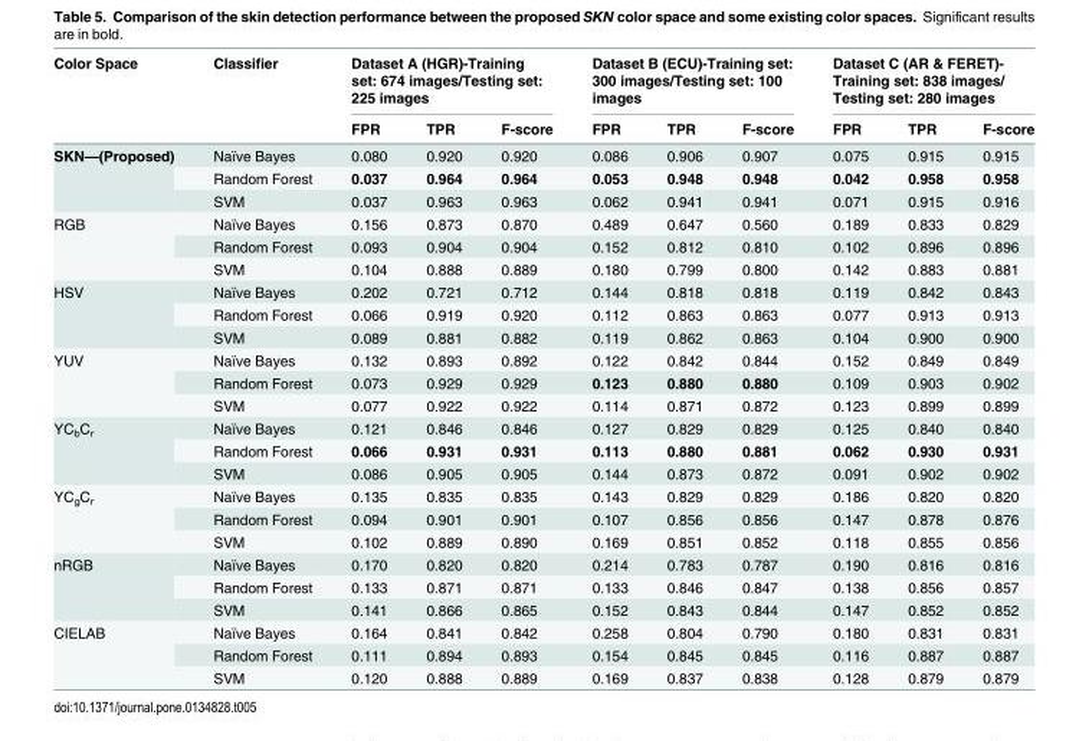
<table><thead><tr><td rowspan="2">Color Space</td><td rowspan="2">Classifier</td><td colspan="3">Dataset A (HGR)-Training set: 674 images/Testing set: 225 images</td><td colspan="3">Dataset B (ECU)-Training set: 300 images/Testing set: 100 images</td><td colspan="3">Dataset C (AR &amp; FERET)- Training set: 838 images/ Testing set: 280 images</td></tr><tr><td>FPR</td><td>TPR</td><td>F-score</td><td>FPR</td><td>TPR</td><td>F-score</td><td>FPR</td><td>TPR</td><td>F-score</td></tr></thead><tbody><tr><td rowspan="3">SKN—(Proposed)</td><td>Naïve Bayes</td><td>0.080</td><td>0.920</td><td>0.920</td><td>0.086</td><td>0.906</td><td>0.907</td><td>0.075</td><td>0.915</td><td>0.915</td></tr><tr><td>Random Forest</td><td>0.037</td><td>0.964</td><td>0.964</td><td>0.053</td><td>0.948</td><td>0.948</td><td>0.042</td><td>0.958</td><td>0.958</td></tr><tr><td>SVM</td><td>0.037</td><td>0.963</td><td>0.963</td><td>0.062</td><td>0.941</td><td>0.941</td><td>0.071</td><td>0.915</td><td>0.916</td></tr><tr><td rowspan="3">RGB</td><td>Naïve Bayes</td><td>0.156</td><td>0.873</td><td>0.870</td><td>0.489</td><td>0.647</td><td>0.560</td><td>0.189</td><td>0.833</td><td>0.829</td></tr><tr><td>Random Forest</td><td>0.093</td><td>0.904</td><td>0.904</td><td>0.152</td><td>0.812</td><td>0.810</td><td>0.102</td><td>0.896</td><td>0.896</td></tr><tr><td>SVM</td><td>0.104</td><td>0.888</td><td>0.889</td><td>0.180</td><td>0.799</td><td>0.800</td><td>0.142</td><td>0.883</td><td>0.881</td></tr><tr><td rowspan="3">HSV</td><td>Naïve Bayes</td><td>0.202</td><td>0.721</td><td>0.712</td><td>0.144</td><td>0.818</td><td>0.818</td><td>0.119</td><td>0.842</td><td>0.843</td></tr><tr><td>Random Forest</td><td>0.066</td><td>0.919</td><td>0.920</td><td>0.112</td><td>0.863</td><td>0.863</td><td>0.077</td><td>0.913</td><td>0.913</td></tr><tr><td>SVM</td><td>0.089</td><td>0.881</td><td>0.882</td><td>0.119</td><td>0.862</td><td>0.863</td><td>0.104</td><td>0.900</td><td>0.900</td></tr><tr><td rowspan="3">YUV</td><td>Naïve Bayes</td><td>0.132</td><td>0.893</td><td>0.892</td><td>0.122</td><td>0.842</td><td>0.844</td><td>0.152</td><td>0.849</td><td>0.849</td></tr><tr><td>Random Forest</td><td>0.073</td><td>0.929</td><td>0.929</td><td>0.123</td><td>0.880</td><td>0.880</td><td>0.109</td><td>0.903</td><td>0.902</td></tr><tr><td>SVM</td><td>0.077</td><td>0.922</td><td>0.922</td><td>0.114</td><td>0.871</td><td>0.872</td><td>0.123</td><td>0.899</td><td>0.899</td></tr><tr><td rowspan="3">YC<sub>b</sub>C<sub>r</sub></td><td>Naïve Bayes</td><td>0.121</td><td>0.846</td><td>0.846</td><td>0.127</td><td>0.829</td><td>0.829</td><td>0.125</td><td>0.840</td><td>0.840</td></tr><tr><td>Random Forest</td><td>0.066</td><td>0.931</td><td>0.931</td><td>0.113</td><td>0.880</td><td>0.881</td><td>0.062</td><td>0.930</td><td>0.931</td></tr><tr><td>SVM</td><td>0.086</td><td>0.905</td><td>0.905</td><td>0.144</td><td>0.873</td><td>0.872</td><td>0.091</td><td>0.902</td><td>0.902</td></tr><tr><td rowspan="3">YC<sub>g</sub>C<sub>r</sub></td><td>Naïve Bayes</td><td>0.135</td><td>0.835</td><td>0.835</td><td>0.143</td><td>0.829</td><td>0.829</td><td>0.186</td><td>0.820</td><td>0.820</td></tr><tr><td>Random Forest</td><td>0.094</td><td>0.901</td><td>0.901</td><td>0.107</td><td>0.856</td><td>0.856</td><td>0.147</td><td>0.878</td><td>0.876</td></tr><tr><td>SVM</td><td>0.102</td><td>0.889</td><td>0.890</td><td>0.169</td><td>0.851</td><td>0.852</td><td>0.118</td><td>0.855</td><td>0.856</td></tr><tr><td rowspan="3">nRGB</td><td>Naïve Bayes</td><td>0.170</td><td>0.820</td><td>0.820</td><td>0.214</td><td>0.783</td><td>0.787</td><td>0.190</td><td>0.816</td><td>0.816</td></tr><tr><td>Random Forest</td><td>0.133</td><td>0.871</td><td>0.871</td><td>0.133</td><td>0.846</td><td>0.847</td><td>0.138</td><td>0.856</td><td>0.857</td></tr><tr><td>SVM</td><td>0.141</td><td>0.866</td><td>0.865</td><td>0.152</td><td>0.843</td><td>0.844</td><td>0.147</td><td>0.852</td><td>0.852</td></tr><tr><td rowspan="3">CIELAB</td><td>Naïve Bayes</td><td>0.164</td><td>0.841</td><td>0.842</td><td>0.258</td><td>0.804</td><td>0.790</td><td>0.180</td><td>0.831</td><td>0.831</td></tr><tr><td>Random Forest</td><td>0.111</td><td>0.894</td><td>0.893</td><td>0.154</td><td>0.845</td><td>0.845</td><td>0.116</td><td>0.887</td><td>0.887</td></tr><tr><td>SVM</td><td>0.120</td><td>0.888</td><td>0.889</td><td>0.169</td><td>0.837</td><td>0.838</td><td>0.128</td><td>0.879</td><td>0.879</td></tr></tbody></table>